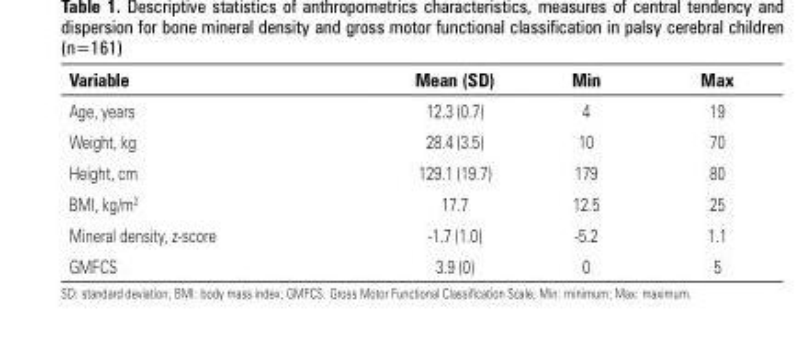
<table><thead><tr><td>Variable</td><td>Mean (SD)</td><td>Min</td><td>Max</td></tr></thead><tbody><tr><td>Age, years</td><td>12.3 (0.7)</td><td>4</td><td>19</td></tr><tr><td>Weight, kg</td><td>28.4 (3.5)</td><td>10</td><td>70</td></tr><tr><td>Height, cm</td><td>129.1 (19.7)</td><td>179</td><td>80</td></tr><tr><td>BMI, kg/m<sup>2</sup></td><td>17.7</td><td>12.5</td><td>25</td></tr><tr><td>Mineral density, z-score</td><td>-1.7 (1.0)</td><td>-5.2</td><td>1.1</td></tr><tr><td>GMFCS</td><td>3.9 (0)</td><td>0</td><td>5</td></tr></tbody></table>